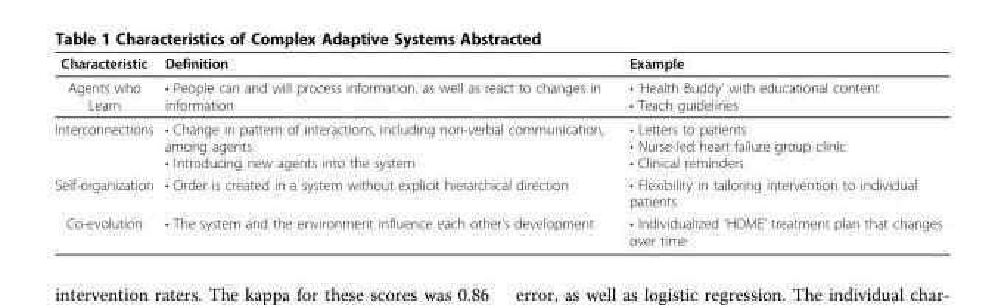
<table><thead><tr><td>Characteristic</td><td>Definition</td><td>Example</td></tr></thead><tbody><tr><td>Agents who Learn</td><td>• People can and will process information, as well as react to changes in information</td><td>• ‘Health Buddy’ with educational content • Teach guidelines</td></tr><tr><td>Interconnections</td><td>• Change in pattern of interactions, including non-verbal communication, among agents • Introducing new agents into the system</td><td>• Letters to patients • Nurse-led heart failure group clinic • Clinical reminders</td></tr><tr><td>Self-organization</td><td>• Order is created in a system without explicit hierarchical direction</td><td>• Flexibility in tailoring intervention to individual patients</td></tr><tr><td>Co-evolution</td><td>• The system and the environment influence each other’s development</td><td>• Individualized ‘HOME’ treatment plan that changes over time</td></tr></tbody></table>